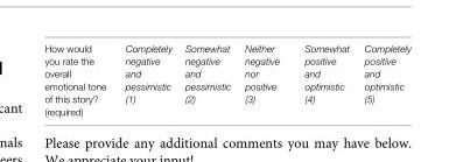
<table><tbody><tr><td>How would you rate the overall emotional tone of this story? (required)</td><td>Completely negative and pessimistic (1)</td><td>Somewhat negative and pessimistic (2)</td><td>Neither negative nor positive (3)</td><td>Somewhat positive and optimistic (4)</td><td>Completely positive and optimistic (5)</td></tr></tbody></table>